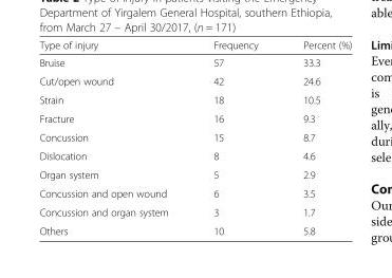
<table><thead><tr><td>Type of injury</td><td>Frequency</td><td>Percent (%)</td></tr></thead><tbody><tr><td>Bruise</td><td>57</td><td>33.3</td></tr><tr><td>Cut/open wound</td><td>42</td><td>24.6</td></tr><tr><td>Strain</td><td>18</td><td>10.5</td></tr><tr><td>Fracture</td><td>16</td><td>9.3</td></tr><tr><td>Concussion</td><td>15</td><td>8.7</td></tr><tr><td>Dislocation</td><td>8</td><td>4.6</td></tr><tr><td>Organ system</td><td>5</td><td>2.9</td></tr><tr><td>Concussion and open wound</td><td>6</td><td>3.5</td></tr><tr><td>Concussion and organ system</td><td>3</td><td>1.7</td></tr><tr><td>Others</td><td>10</td><td>5.8</td></tr></tbody></table>